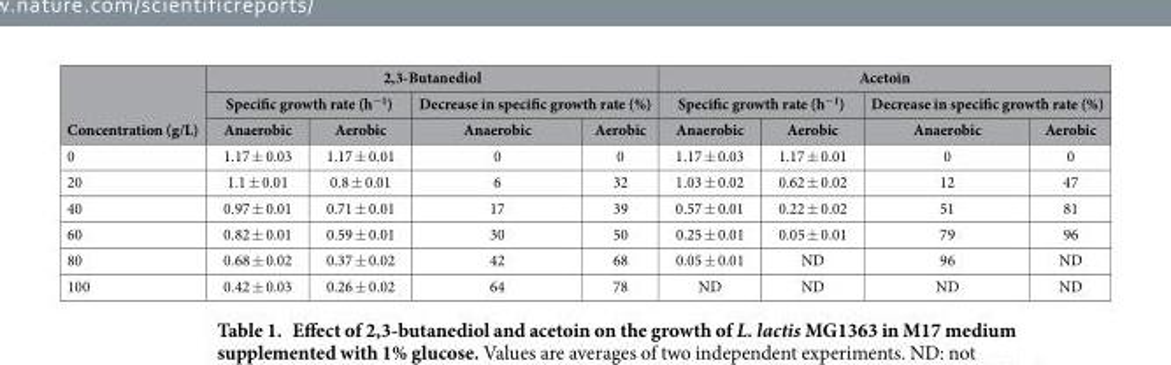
<table><thead><tr><td rowspan="3">Concentration (g/L)</td><td colspan="4">2,3-Butanediol</td><td colspan="4">Acetoin</td></tr><tr><td colspan="2">Specific growth rate (h<sup>−1</sup>)</td><td colspan="2">Decrease in specific growth rate (%)</td><td colspan="2">Specific growth rate (h<sup>−1</sup>)</td><td colspan="2">Decrease in specific growth rate (%)</td></tr><tr><td>Anaerobic</td><td>Aerobic</td><td>Anaerobic</td><td>Aerobic</td><td>Anaerobic</td><td>Aerobic</td><td>Anaerobic</td><td>Aerobic</td></tr></thead><tbody><tr><td>0</td><td>1.17 ± 0.03</td><td>1.17 ± 0.01</td><td>0</td><td>0</td><td>1.17 ± 0.03</td><td>1.17 ± 0.01</td><td>0</td><td>0</td></tr><tr><td>20</td><td>1.1 ± 0.01</td><td>0.8 ± 0.01</td><td>6</td><td>32</td><td>1.03 ± 0.02</td><td>0.62 ± 0.02</td><td>12</td><td>47</td></tr><tr><td>40</td><td>0.97 ± 0.01</td><td>0.71 ± 0.01</td><td>17</td><td>39</td><td>0.57 ± 0.01</td><td>0.22 ± 0.02</td><td>51</td><td>81</td></tr><tr><td>60</td><td>0.82 ± 0.01</td><td>0.59 ± 0.01</td><td>30</td><td>50</td><td>0.25 ± 0.01</td><td>0.05 ± 0.01</td><td>79</td><td>96</td></tr><tr><td>80</td><td>0.68 ± 0.02</td><td>0.37 ± 0.02</td><td>42</td><td>68</td><td>0.05 ± 0.01</td><td>ND</td><td>96</td><td>ND</td></tr><tr><td>100</td><td>0.42 ± 0.03</td><td>0.26 ± 0.02</td><td>64</td><td>78</td><td>ND</td><td>ND</td><td>ND</td><td>ND</td></tr></tbody></table>